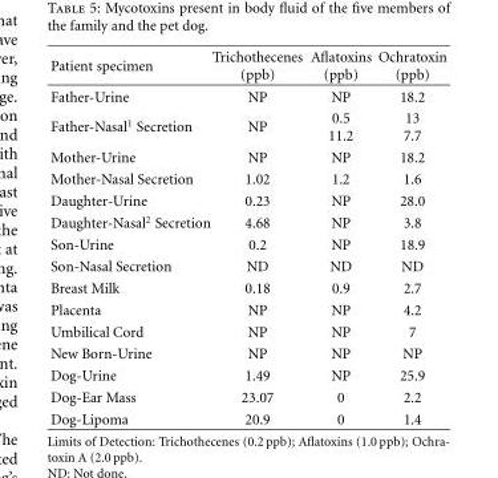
<table><thead><tr><td>Patient specimen</td><td>Trichothecenes (ppb)</td><td>Aflatoxins (ppb)</td><td>Ochratoxin (ppb)</td></tr></thead><tbody><tr><td>Father-Urine</td><td>NP</td><td>NP</td><td>18.2</td></tr><tr><td>Father-Nasal<sup>1</sup> Secretion</td><td>NP</td><td>0.5 11.2</td><td>13 7.7</td></tr><tr><td>Mother-Urine</td><td>NP</td><td>NP</td><td>18.2</td></tr><tr><td>Mother-Nasal Secretion</td><td>1.02</td><td>1.2</td><td>1.6</td></tr><tr><td>Daughter-Urine</td><td>0.23</td><td>NP</td><td>28.0</td></tr><tr><td>Daughter-Nasal<sup>2</sup> Secretion</td><td>4.68</td><td>NP</td><td>3.8</td></tr><tr><td>Son-Urine</td><td>0.2</td><td>NP</td><td>18.9</td></tr><tr><td>Son-Nasal Secretion</td><td>ND</td><td>ND</td><td>ND</td></tr><tr><td>Breast Milk</td><td>0.18</td><td>0.9</td><td>2.7</td></tr><tr><td>Placenta</td><td>NP</td><td>NP</td><td>4.2</td></tr><tr><td>Umbilical Cord</td><td>NP</td><td>NP</td><td>7</td></tr><tr><td>New Born-Urine</td><td>NP</td><td>NP</td><td>NP</td></tr><tr><td>Dog-Urine</td><td>1.49</td><td>NP</td><td>25.9</td></tr><tr><td>Dog-Ear Mass</td><td>23.07</td><td>0</td><td>2.2</td></tr><tr><td>Dog-Lipoma</td><td>20.9</td><td>0</td><td>1.4</td></tr></tbody></table>